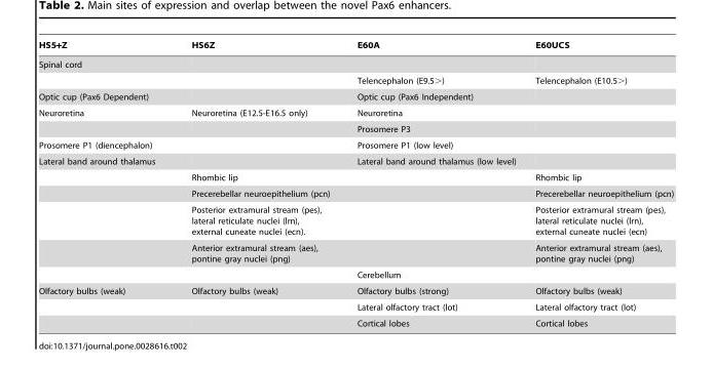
<table><thead><tr><td>HS5+Z</td><td>HS6Z</td><td>E60A</td><td>E60UCS</td></tr></thead><tbody><tr><td colspan="4">Spinal cord</td></tr><tr><td></td><td></td><td>Telencephalon (E9.5&gt;)</td><td>Telencephalon (E10.5&gt;)</td></tr><tr><td>Optic cup (Pax6 Dependent)</td><td></td><td>Optic cup (Pax6 Independent)</td><td></td></tr><tr><td rowspan="2">Neuroretina</td><td>Neuroretina (E12.5-E16.5 only)</td><td>Neuroretina</td><td></td></tr><tr><td></td><td>Prosomere P3</td><td></td></tr><tr><td>Prosomere P1 (diencephalon)</td><td></td><td>Prosomere P1 (low level)</td><td></td></tr><tr><td rowspan="6">Lateral band around thalamus</td><td></td><td>Lateral band around thalamus (low level)</td><td></td></tr><tr><td>Rhombic lip</td><td></td><td>Rhombic lip</td></tr><tr><td>Precerebellar neuroepithelium (pcn)</td><td></td><td>Precerebellar neuroepithelium (pcn)</td></tr><tr><td>Posterior extramural stream (pes), lateral reticulate nuclei (lrn), external cuneate nuclei (ecn).</td><td></td><td>Posterior extramural stream (pes), lateral reticulate nuclei (lrn), external cuneate nuclei (ecn)</td></tr><tr><td>Anterior extramural stream (aes), pontine gray nuclei (png)</td><td></td><td>Anterior extramural stream (aes), pontine gray nuclei (png)</td></tr><tr><td></td><td>Cerebellum</td><td></td></tr><tr><td rowspan="3">Olfactory bulbs (weak)</td><td>Olfactory bulbs (weak)</td><td>Olfactory bulbs (strong)</td><td>Olfactory bulbs (weak)</td></tr><tr><td></td><td>Lateral olfactory tract (lot)</td><td>Lateral olfactory tract (lot)</td></tr><tr><td></td><td>Cortical lobes</td><td>Cortical lobes</td></tr></tbody></table>